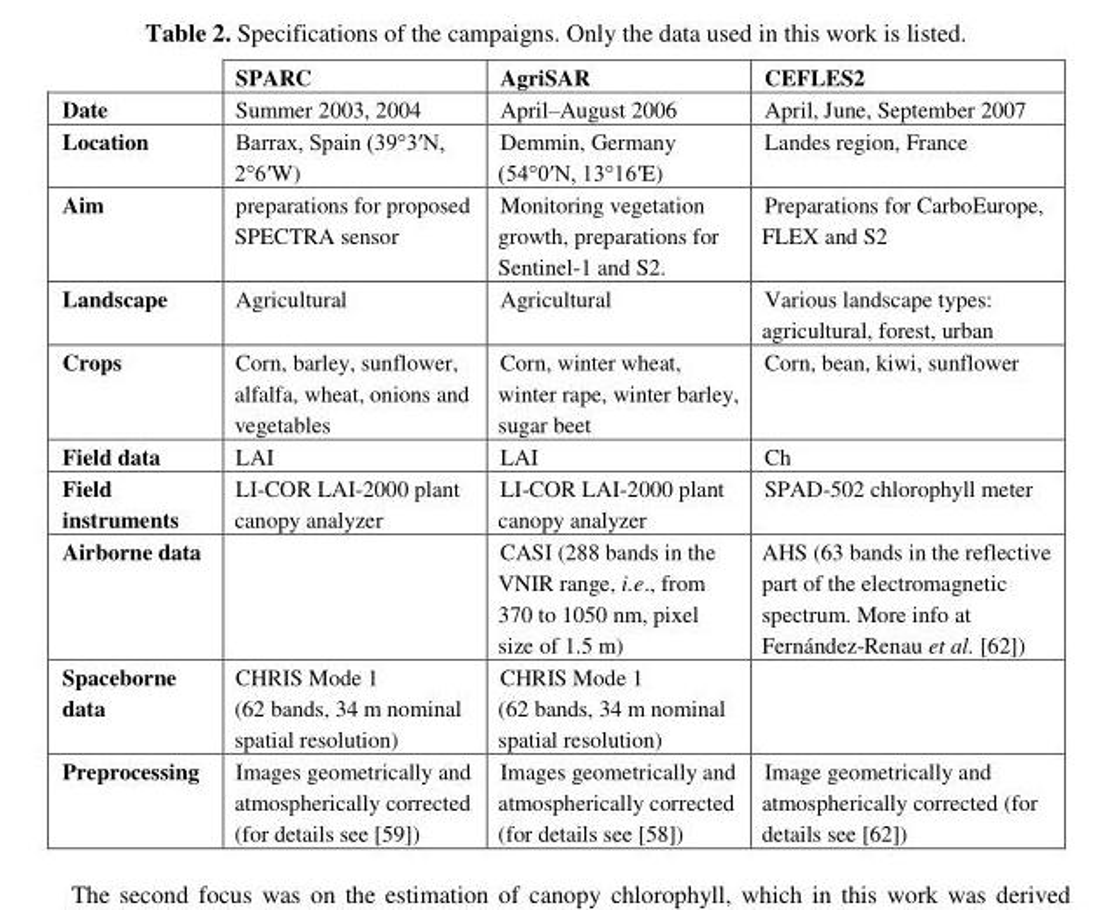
<table><thead><tr><td></td><td>SPARC</td><td>AgriSAR</td><td>CEFLES2</td></tr></thead><tbody><tr><td>Date</td><td>Summer 2003, 2004</td><td>April–August 2006</td><td>April, June, September 2007</td></tr><tr><td>Location</td><td>Barrax, Spain (39°3′N, 2°6′W)</td><td>Demmin, Germany (54°0′N, 13°16′E)</td><td>Landes region, France</td></tr><tr><td>Aim</td><td>preparations for proposed SPECTRA sensor</td><td>Monitoring vegetation growth, preparations for Sentinel-1 and S2.</td><td>Preparations for CarboEurope, FLEX and S2</td></tr><tr><td>Landscape</td><td>Agricultural</td><td>Agricultural</td><td>Various landscape types: agricultural, forest, urban</td></tr><tr><td>Crops</td><td>Corn, barley, sunflower, alfalfa, wheat, onions and vegetables</td><td>Corn, winter wheat, winter rape, winter barley, sugar beet</td><td>Corn, bean, kiwi, sunflower</td></tr><tr><td>Field data</td><td>LAI</td><td>LAI</td><td>Ch</td></tr><tr><td>Field instruments</td><td>LI-COR LAI-2000 plant canopy analyzer</td><td>LI-COR LAI-2000 plant canopy analyzer</td><td>SPAD-502 chlorophyll meter</td></tr><tr><td>Airborne data</td><td></td><td>CASI (288 bands in the VNIR range, i.e., from 370 to 1050 nm, pixel size of 1.5 m)</td><td>AHS (63 bands in the reflective part of the electromagnetic spectrum. More info at Fernández-Renau et al. [62])</td></tr><tr><td>Spaceborne data</td><td>CHRIS Mode 1 (62 bands, 34 m nominal spatial resolution)</td><td>CHRIS Mode 1 (62 bands, 34 m nominal spatial resolution)</td><td></td></tr><tr><td>Preprocessing</td><td>Images geometrically and atmospherically corrected (for details see [59])</td><td>Images geometrically and atmospherically corrected (for details see [58])</td><td>Image geometrically and atmospherically corrected (for details see [62])</td></tr></tbody></table>